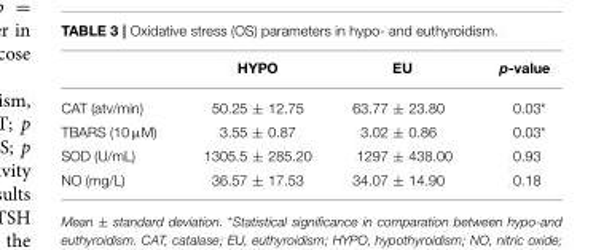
<table><thead><tr><td></td><td>HYPO</td><td>EU</td><td>p-value</td></tr></thead><tbody><tr><td>CAT (atv/min)</td><td>50.25 ± 12.75</td><td>63.77 ± 23.80</td><td>0.03*</td></tr><tr><td>TBARS (10 µM)</td><td>3.55 ± 0.87</td><td>3.02 ± 0.86</td><td>0.03*</td></tr><tr><td>SOD (U/mL)</td><td>1305.5 ± 285.20</td><td>1297 ± 438.00</td><td>0.93</td></tr><tr><td>NO (mg/L)</td><td>36.57 ± 17.53</td><td>34.07 ± 14.90</td><td>0.18</td></tr></tbody></table>